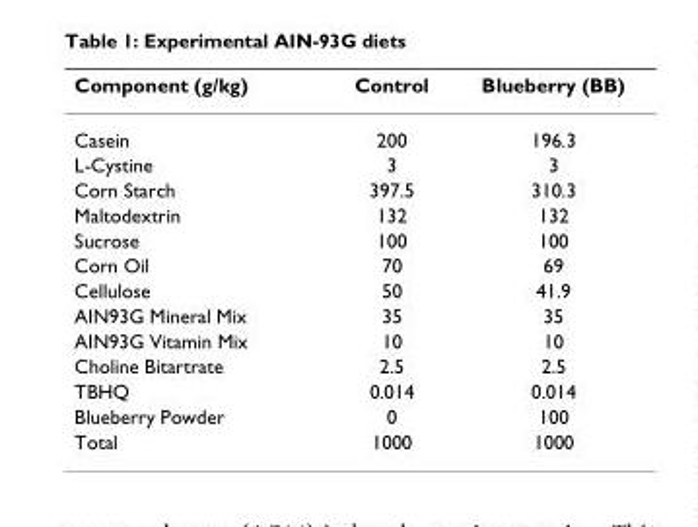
<table><thead><tr><td>Component (g/kg)</td><td>Control</td><td>Blueberry (BB)</td></tr></thead><tbody><tr><td>Casein</td><td>200</td><td>196.3</td></tr><tr><td>L-Cystine</td><td>3</td><td>3</td></tr><tr><td>Corn Starch</td><td>397.5</td><td>310.3</td></tr><tr><td>Maltodextrin</td><td>132</td><td>132</td></tr><tr><td>Sucrose</td><td>100</td><td>100</td></tr><tr><td>Corn Oil</td><td>70</td><td>69</td></tr><tr><td>Cellulose</td><td>50</td><td>41.9</td></tr><tr><td>AIN93G Mineral Mix</td><td>35</td><td>35</td></tr><tr><td>AIN93G Vitamin Mix</td><td>10</td><td>10</td></tr><tr><td>Choline Bitartrate</td><td>2.5</td><td>2.5</td></tr><tr><td>TBHQ</td><td>0.014</td><td>0.014</td></tr><tr><td>Blueberry Powder</td><td>0</td><td>100</td></tr><tr><td>Total</td><td>1000</td><td>1000</td></tr></tbody></table>